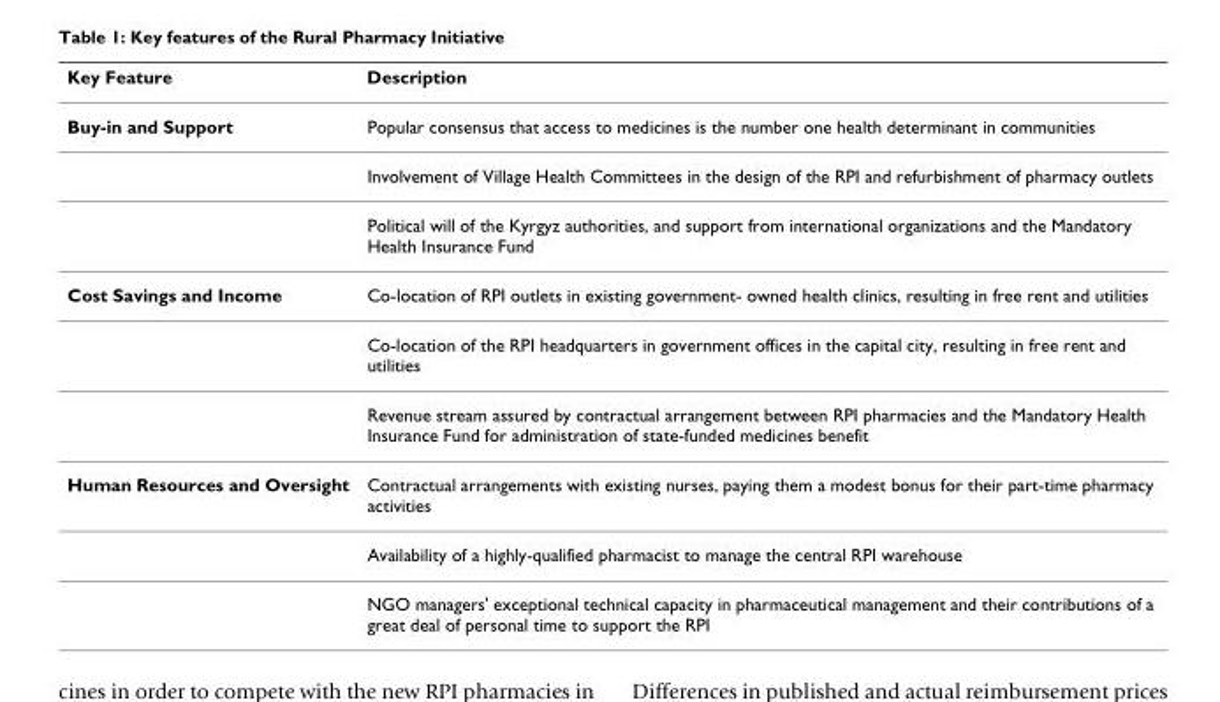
<table><thead><tr><td>Key Feature</td><td>Description</td></tr></thead><tbody><tr><td rowspan="3">Buy-in and Support</td><td>Popular consensus that access to medicines is the number one health determinant in communities</td></tr><tr><td>Involvement of Village Health Committees in the design of the RPI and refurbishment of pharmacy outlets</td></tr><tr><td>Political will of the Kyrgyz authorities, and support from international organizations and the Mandatory Health Insurance Fund</td></tr><tr><td rowspan="3">Cost Savings and Income</td><td>Co-location of RPI outlets in existing government- owned health clinics, resulting in free rent and utilities</td></tr><tr><td>Co-location of the RPI headquarters in government offices in the capital city, resulting in free rent and utilities</td></tr><tr><td>Revenue stream assured by contractual arrangement between RPI pharmacies and the Mandatory Health Insurance Fund for administration of state-funded medicines benefit</td></tr><tr><td rowspan="3">Human Resources and Oversight</td><td>Contractual arrangements with existing nurses, paying them a modest bonus for their part-time pharmacy activities</td></tr><tr><td>Availability of a highly-qualified pharmacist to manage the central RPI warehouse</td></tr><tr><td>NGO managers&#x27; exceptional technical capacity in pharmaceutical management and their contributions of a great deal of personal time to support the RPI</td></tr></tbody></table>